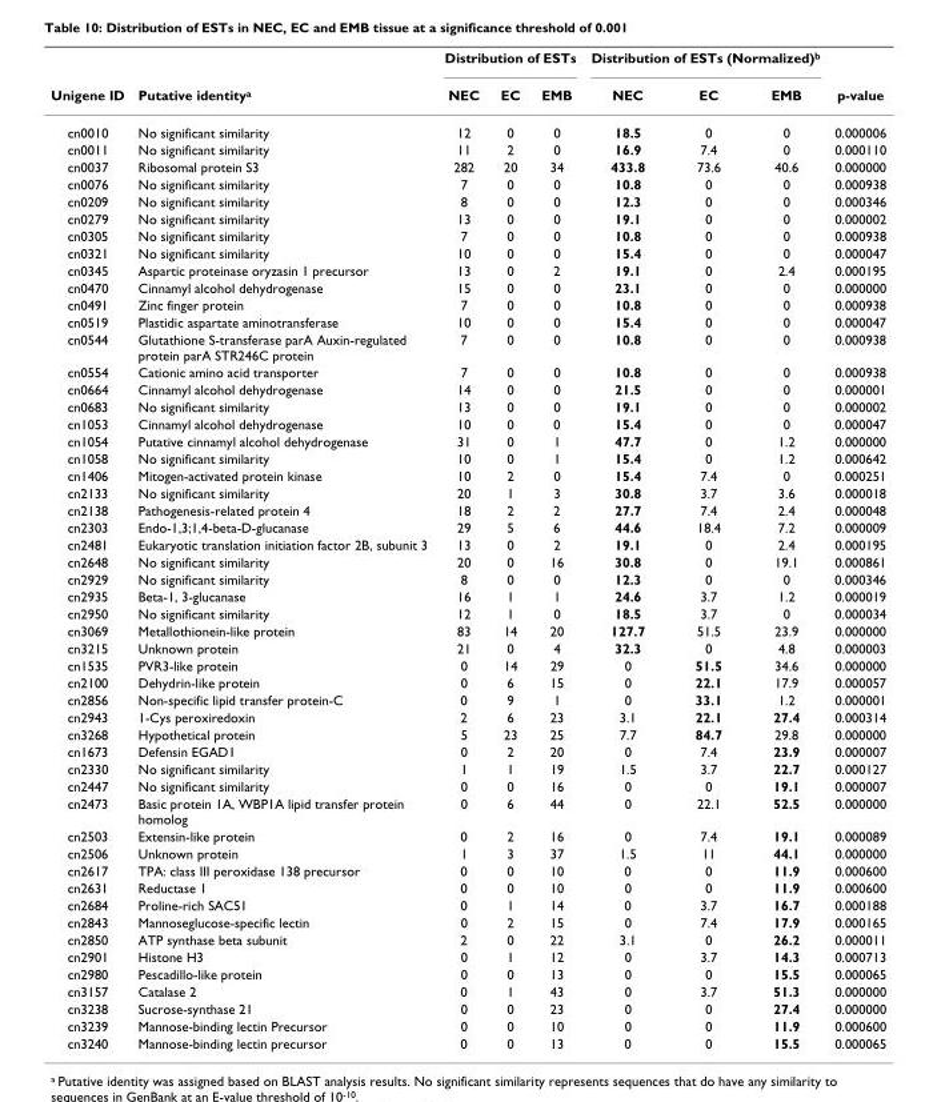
<table><thead><tr><td rowspan="2">Unigene ID</td><td rowspan="2">Putative identity<sup>a</sup></td><td colspan="3">Distribution of ESTs</td><td colspan="3">Distribution of ESTs (Normalized)<sup>b</sup></td><td rowspan="2">p-value</td></tr><tr><td>NEC</td><td>EC</td><td>EMB</td><td>NEC</td><td>EC</td><td>EMB</td></tr></thead><tbody><tr><td>cn0010</td><td>No significant similarity</td><td>12</td><td>0</td><td>0</td><td>18.5</td><td>0</td><td>0</td><td>0.000006</td></tr><tr><td>cn0011</td><td>No significant similarity</td><td>11</td><td>2</td><td>0</td><td>16.9</td><td>7.4</td><td>0</td><td>0.000110</td></tr><tr><td>cn0037</td><td>Ribosomal protein S3</td><td>282</td><td>20</td><td>34</td><td>433.8</td><td>73.6</td><td>40.6</td><td>0.000000</td></tr><tr><td>cn0076</td><td>No significant similarity</td><td>7</td><td>0</td><td>0</td><td>10.8</td><td>0</td><td>0</td><td>0.000938</td></tr><tr><td>cn0209</td><td>No significant similarity</td><td>8</td><td>0</td><td>0</td><td>12.3</td><td>0</td><td>0</td><td>0.000346</td></tr><tr><td>cn0279</td><td>No significant similarity</td><td>13</td><td>0</td><td>0</td><td>19.1</td><td>0</td><td>0</td><td>0.000002</td></tr><tr><td>cn0305</td><td>No significant similarity</td><td>7</td><td>0</td><td>0</td><td>10.8</td><td>0</td><td>0</td><td>0.000938</td></tr><tr><td>cn0321</td><td>No significant similarity</td><td>10</td><td>0</td><td>0</td><td>15.4</td><td>0</td><td>0</td><td>0.000047</td></tr><tr><td>cn0345</td><td>Aspartic proteinase oryzasin 1 precursor</td><td>13</td><td>0</td><td>2</td><td>19.1</td><td>0</td><td>2.4</td><td>0.000195</td></tr><tr><td>cn0470</td><td>Cinnamyl alcohol dehydrogenase</td><td>15</td><td>0</td><td>0</td><td>23.1</td><td>0</td><td>0</td><td>0.000000</td></tr><tr><td>cn0491</td><td>Zinc finger protein</td><td>7</td><td>0</td><td>0</td><td>10.8</td><td>0</td><td>0</td><td>0.000938</td></tr><tr><td>cn0519</td><td>Plastidic aspartate aminotransferase</td><td>10</td><td>0</td><td>0</td><td>15.4</td><td>0</td><td>0</td><td>0.000047</td></tr><tr><td>cn0544</td><td>Glutathione S-transferase parA Auxin-regulated protein parA STR246C protein</td><td>7</td><td>0</td><td>0</td><td>10.8</td><td>0</td><td>0</td><td>0.000938</td></tr><tr><td>cn0554</td><td>Cationic amino acid transporter</td><td>7</td><td>0</td><td>0</td><td>10.8</td><td>0</td><td>0</td><td>0.000938</td></tr><tr><td>cn0664</td><td>Cinnamyl alcohol dehydrogenase</td><td>14</td><td>0</td><td>0</td><td>21.5</td><td>0</td><td>0</td><td>0.000001</td></tr><tr><td>cn0683</td><td>No significant similarity</td><td>13</td><td>0</td><td>0</td><td>19.1</td><td>0</td><td>0</td><td>0.000002</td></tr><tr><td>cn1053</td><td>Cinnamyl alcohol dehydrogenase</td><td>10</td><td>0</td><td>0</td><td>15.4</td><td>0</td><td>0</td><td>0.000047</td></tr><tr><td>cn1054</td><td>Putative cinnamyl alcohol dehydrogenase</td><td>31</td><td>0</td><td>1</td><td>47.7</td><td>0</td><td>1.2</td><td>0.000000</td></tr><tr><td>cn1058</td><td>No significant similarity</td><td>10</td><td>0</td><td>1</td><td>15.4</td><td>0</td><td>1.2</td><td>0.000642</td></tr><tr><td>cn1406</td><td>Mitogen-activated protein kinase</td><td>10</td><td>2</td><td>0</td><td>15.4</td><td>7.4</td><td>0</td><td>0.000251</td></tr><tr><td>cn2133</td><td>No significant similarity</td><td>20</td><td>1</td><td>3</td><td>30.8</td><td>3.7</td><td>3.6</td><td>0.000018</td></tr><tr><td>cn2138</td><td>Pathogenesis-related protein 4</td><td>18</td><td>2</td><td>2</td><td>27.7</td><td>7.4</td><td>2.4</td><td>0.000048</td></tr><tr><td>cn2303</td><td>Endo-1,3;1,4-beta-D-glucanase</td><td>29</td><td>5</td><td>6</td><td>44.6</td><td>18.4</td><td>7.2</td><td>0.000009</td></tr><tr><td>cn2481</td><td>Eukaryotic translation initiation factor 2B, subunit 3</td><td>13</td><td>0</td><td>2</td><td>19.1</td><td>0</td><td>2.4</td><td>0.000195</td></tr><tr><td>cn2648</td><td>No significant similarity</td><td>20</td><td>0</td><td>16</td><td>30.8</td><td>0</td><td>19.1</td><td>0.000861</td></tr><tr><td>cn2929</td><td>No significant similarity</td><td>8</td><td>0</td><td>0</td><td>12.3</td><td>0</td><td>0</td><td>0.000346</td></tr><tr><td>cn2935</td><td>Beta-1, 3-glucanase</td><td>16</td><td>1</td><td>1</td><td>24.6</td><td>3.7</td><td>1.2</td><td>0.000019</td></tr><tr><td>cn2950</td><td>No significant similarity</td><td>12</td><td>1</td><td>0</td><td>18.5</td><td>3.7</td><td>0</td><td>0.000034</td></tr><tr><td>cn3069</td><td>Metallothionein-like protein</td><td>83</td><td>14</td><td>20</td><td>127.7</td><td>51.5</td><td>23.9</td><td>0.000000</td></tr><tr><td>cn3215</td><td>Unknown protein</td><td>21</td><td>0</td><td>4</td><td>32.3</td><td>0</td><td>4.8</td><td>0.000003</td></tr><tr><td>cn1535</td><td>PVR3-like protein</td><td>0</td><td>14</td><td>29</td><td>0</td><td>51.5</td><td>34.6</td><td>0.000000</td></tr><tr><td>cn2100</td><td>Dehydrin-like protein</td><td>0</td><td>6</td><td>15</td><td>0</td><td>22.1</td><td>17.9</td><td>0.000057</td></tr><tr><td>cn2856</td><td>Non-specific lipid transfer protein-C</td><td>0</td><td>9</td><td>1</td><td>0</td><td>33.1</td><td>1.2</td><td>0.000001</td></tr><tr><td>cn2943</td><td>1-Cys peroxiredoxin</td><td>2</td><td>6</td><td>23</td><td>3.1</td><td>22.1</td><td>27.4</td><td>0.000314</td></tr><tr><td>cn3268</td><td>Hypothetical protein</td><td>5</td><td>23</td><td>25</td><td>7.7</td><td>84.7</td><td>29.8</td><td>0.000000</td></tr><tr><td>cn1673</td><td>Defensin EGAD1</td><td>0</td><td>2</td><td>20</td><td>0</td><td>7.4</td><td>23.9</td><td>0.000007</td></tr><tr><td>cn2330</td><td>No significant similarity</td><td>1</td><td>1</td><td>19</td><td>1.5</td><td>3.7</td><td>22.7</td><td>0.000127</td></tr><tr><td>cn2447</td><td>No significant similarity</td><td>0</td><td>0</td><td>16</td><td>0</td><td>0</td><td>19.1</td><td>0.000007</td></tr><tr><td>cn2473</td><td>Basic protein 1A, WBP1A lipid transfer protein homolog</td><td>0</td><td>6</td><td>44</td><td>0</td><td>22.1</td><td>52.5</td><td>0.000000</td></tr><tr><td>cn2503</td><td>Extensin-like protein</td><td>0</td><td>2</td><td>16</td><td>0</td><td>7.4</td><td>19.1</td><td>0.000089</td></tr><tr><td>cn2506</td><td>Unknown protein</td><td>1</td><td>3</td><td>37</td><td>1.5</td><td>11</td><td>44.1</td><td>0.000000</td></tr><tr><td>cn2617</td><td>TPA: class III peroxidase 138 precursor</td><td>0</td><td>0</td><td>10</td><td>0</td><td>0</td><td>11.9</td><td>0.000600</td></tr><tr><td>cn2631</td><td>Reductase 1</td><td>0</td><td>0</td><td>10</td><td>0</td><td>0</td><td>11.9</td><td>0.000600</td></tr><tr><td>cn2684</td><td>Proline-rich SAC51</td><td>0</td><td>1</td><td>14</td><td>0</td><td>3.7</td><td>16.7</td><td>0.000188</td></tr><tr><td>cn2843</td><td>Mannoseglucose-specific lectin</td><td>0</td><td>2</td><td>15</td><td>0</td><td>7.4</td><td>17.9</td><td>0.000165</td></tr><tr><td>cn2850</td><td>ATP synthase beta subunit</td><td>2</td><td>0</td><td>22</td><td>3.1</td><td>0</td><td>26.2</td><td>0.000011</td></tr><tr><td>cn2901</td><td>Histone H3</td><td>0</td><td>1</td><td>12</td><td>0</td><td>3.7</td><td>14.3</td><td>0.000713</td></tr><tr><td>cn2980</td><td>Pescadillo-like protein</td><td>0</td><td>0</td><td>13</td><td>0</td><td>0</td><td>15.5</td><td>0.000065</td></tr><tr><td>cn3157</td><td>Catalase 2</td><td>0</td><td>1</td><td>43</td><td>0</td><td>3.7</td><td>51.3</td><td>0.000000</td></tr><tr><td>cn3238</td><td>Sucrose-synthase 21</td><td>0</td><td>0</td><td>23</td><td>0</td><td>0</td><td>27.4</td><td>0.000000</td></tr><tr><td>cn3239</td><td>Mannose-binding lectin Precursor</td><td>0</td><td>0</td><td>10</td><td>0</td><td>0</td><td>11.9</td><td>0.000600</td></tr><tr><td>cn3240</td><td>Mannose-binding lectin precursor</td><td>0</td><td>0</td><td>13</td><td>0</td><td>0</td><td>15.5</td><td>0.000065</td></tr></tbody></table>